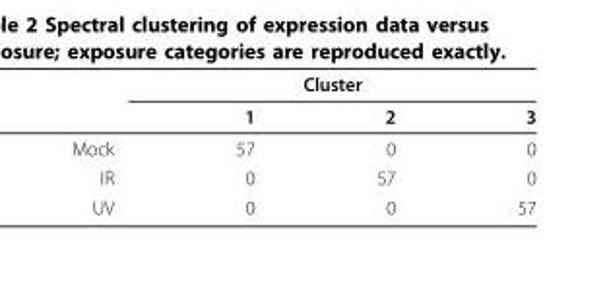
<table><thead><tr><td rowspan="2"></td><td colspan="3">Cluster</td></tr><tr><td>1</td><td>2</td><td>3</td></tr></thead><tbody><tr><td>Mock</td><td>57</td><td>0</td><td>0</td></tr><tr><td>IR</td><td>0</td><td>57</td><td>0</td></tr><tr><td>UV</td><td>0</td><td>0</td><td>57</td></tr></tbody></table>